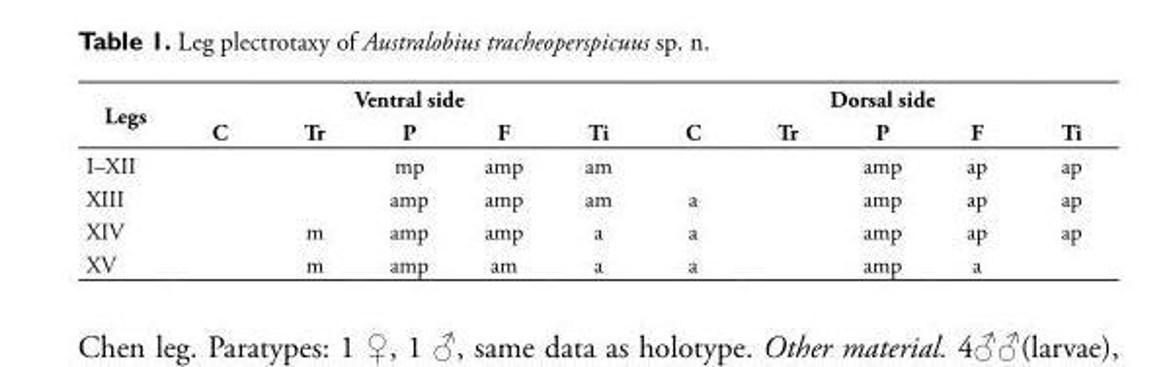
<table><thead><tr><td rowspan="2">Legs</td><td colspan="5">Ventral side</td><td colspan="5">Dorsal side</td></tr><tr><td>C</td><td>Tr</td><td>P</td><td>F</td><td>Ti</td><td>C</td><td>Tr</td><td>P</td><td>F</td><td>Ti</td></tr></thead><tbody><tr><td>I–XII</td><td></td><td></td><td>mp</td><td>amp</td><td>am</td><td></td><td></td><td>amp</td><td>ap</td><td>ap</td></tr><tr><td>XIII</td><td></td><td></td><td>amp</td><td>amp</td><td>am</td><td>a</td><td></td><td>amp</td><td>ap</td><td>ap</td></tr><tr><td>XIV</td><td></td><td>m</td><td>amp</td><td>amp</td><td>a</td><td>a</td><td></td><td>amp</td><td>ap</td><td>ap</td></tr><tr><td>XV</td><td></td><td>m</td><td>amp</td><td>am</td><td>a</td><td>a</td><td></td><td>amp</td><td>a</td><td></td></tr></tbody></table>